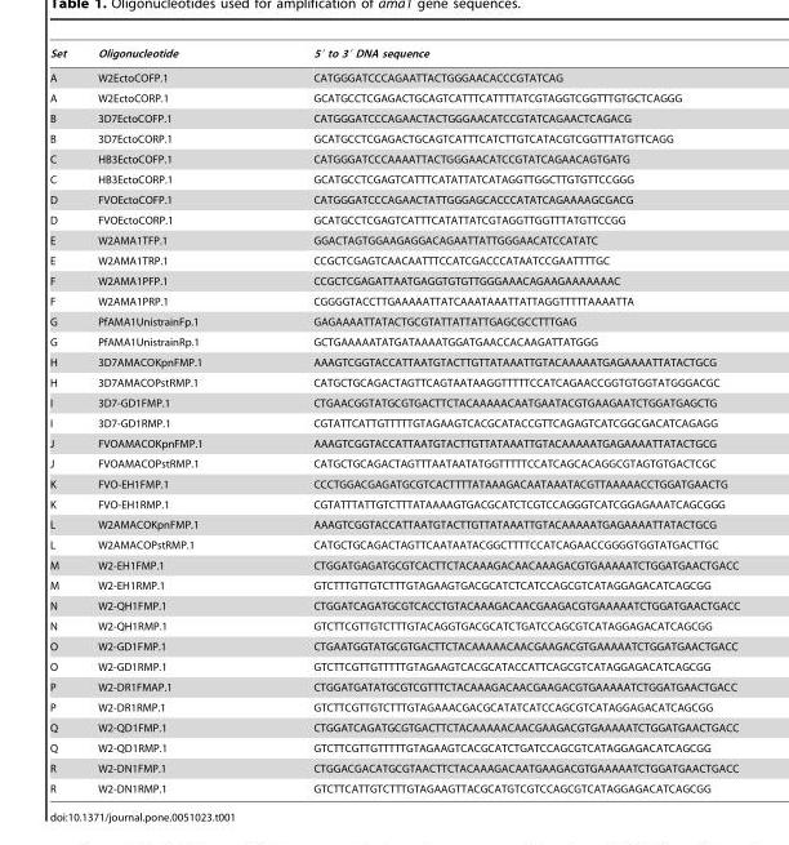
<table><thead><tr><td>Set</td><td>Oligonucleotide</td><td>5′ to 3′ DNA sequence</td></tr></thead><tbody><tr><td>A</td><td>W2EctoCOFP.1</td><td>CATGGGATCCCAGAATTACTGGGAACACCCGTATCAG</td></tr><tr><td>A</td><td>W2EctoCORP.1</td><td>GCATGCCTCGAGACTGCAGTCATTTCATTTTATCGTAGGTCGGTTTGTGCTCAGGG</td></tr><tr><td>B</td><td>3D7EctoCOFP.1</td><td>CATGGGATCCCAGAACTACTGGGAACATCCGTATCAGAACTCAGACG</td></tr><tr><td>B</td><td>3D7EctoCORP.1</td><td>GCATGCCTCGAGACTGCAGTCATTTCATCTTGTCATACGTCGGTTTATGTTCAGG</td></tr><tr><td>C</td><td>HB3EctoCOFP.1</td><td>CATGGGATCCCAAAATTACTGGGAACATCCGTATCAGAACAGTGATG</td></tr><tr><td>C</td><td>HB3EctoCORP.1</td><td>GCATGCCTCGAGTCATTTCATATTATCATAGGTTGGCTTGTGTTCCGGG</td></tr><tr><td>D</td><td>FVOEctoCOFP.1</td><td>CATGGGATCCCAGAACTATTGGGAGCACCCATATCAGAAAAGCGACG</td></tr><tr><td>D</td><td>FVOEctoCORP.1</td><td>GCATGCCTCGAGTCATTTCATATTATCGTAGGTTGGTTTATGTTCCGG</td></tr><tr><td>E</td><td>W2AMA1TFP.1</td><td>GGACTAGTGGAAGAGGACAGAATTATTGGGAACATCCATATC</td></tr><tr><td>E</td><td>W2AMA1TRP.1</td><td>CCGCTCGAGTCAACAATTTCCATCGACCCATAATCCGAATTTTGC</td></tr><tr><td>F</td><td>W2AMA1PFP.1</td><td>CCGCTCGAGATTAATGAGGTGTGTTGGGAAACAGAAGAAAAAAAC</td></tr><tr><td>F</td><td>W2AMA1PRP.1</td><td>CGGGGTACCTTGAAAAATTATCAAATAAATTATTAGGTTTTTAAAATTA</td></tr><tr><td>G</td><td>PfAMA1UnistrainFp.1</td><td>GAGAAAATTATACTGCGTATTATTATTGAGCGCCTTTGAG</td></tr><tr><td>G</td><td>PfAMA1UnistrainRp.1</td><td>GCTGAAAAATATGATAAAATGGATGAACCACAAGATTATGGG</td></tr><tr><td>H</td><td>3D7AMACOKpnFMP.1</td><td>AAAGTCGGTACCATTAATGTACTTGTTATAAATTGTACAAAAATGAGAAAATTATACTGCG</td></tr><tr><td>H</td><td>3D7AMACOPstRMP.1</td><td>CATGCTGCAGACTAGTTCAGTAATAAGGTTTTTCCATCAGAACCGGTGTGGTATGGGACGC</td></tr><tr><td>I</td><td>3D7-GD1FMP.1</td><td>CTGAACGGTATGCGTGACTTCTACAAAAACAATGAATACGTGAAGAATCTGGATGAGCTG</td></tr><tr><td>I</td><td>3D7-GD1RMP.1</td><td>CGTATTCATTGTTTTTGTAGAAGTCACGCATACCGTTCAGAGTCATCGGCGACATCAGAGG</td></tr><tr><td>J</td><td>FVOAMACOKpnFMP.1</td><td>AAAGTCGGTACCATTAATGTACTTGTTATAAATTGTACAAAAATGAGAAAATTATACTGCG</td></tr><tr><td>J</td><td>FVOAMACOPstRMP.1</td><td>CATGCTGCAGACTAGTTTAATAATATGGTTTTTCCATCAGCACAGGCGTAGTGTGACTCGC</td></tr><tr><td>K</td><td>FVO-EH1FMP.1</td><td>CCCTGGACGAGATGCGTCACTTTTATAAAGACAATAAATACGTTAAAAACCTGGATGAACTG</td></tr><tr><td>K</td><td>FVO-EH1RMP.1</td><td>CGTATTTATTGTCTTTATAAAAGTGACGCATCTCGTCCAGGGTCATCGGAGAAATCAGCGGG</td></tr><tr><td>L</td><td>W2AMACOKpnFMP.1</td><td>AAAGTCGGTACCATTAATGTACTTGTTATAAATTGTACAAAAATGAGAAAATTATACTGCG</td></tr><tr><td>L</td><td>W2AMACOPstRMP.1</td><td>CATGCTGCAGACTAGTTCAATAATACGGCTTTTCCATCAGAACCGGGGTGGTATGACTTGC</td></tr><tr><td>M</td><td>W2-EH1FMP.1</td><td>CTGGATGAGATGCGTCACTTCTACAAAGACAACAAAGACGTGAAAAATCTGGATGAACTGACC</td></tr><tr><td>M</td><td>W2-EH1RMP.1</td><td>GTCTTTGTTGTCTTTGTAGAAGTGACGCATCTCATCCAGCGTCATAGGAGACATCAGCGG</td></tr><tr><td>N</td><td>W2-QH1FMP.1</td><td>CTGGATCAGATGCGTCACCTGTACAAAGACAACGAAGACGTGAAAAATCTGGATGAACTGACC</td></tr><tr><td>N</td><td>W2-QH1RMP.1</td><td>GTCTTCGTTGTCTTTGTACAGGTGACGCATCTGATCCAGCGTCATAGGAGACATCAGCGG</td></tr><tr><td>O</td><td>W2-GD1FMP.1</td><td>CTGAATGGTATGCGTGACTTCTACAAAAACAACGAAGACGTGAAAAATCTGGATGAACTGACC</td></tr><tr><td>O</td><td>W2-GD1RMP.1</td><td>GTCTTCGTTGTTTTTGTAGAAGTCACGCATACCATTCAGCGTCATAGGAGACATCAGCGG</td></tr><tr><td>P</td><td>W2-DR1FMAP.1</td><td>CTGGATGATATGCGTCGTTTCTACAAAGACAACGAAGACGTGAAAAATCTGGATGAACTGACC</td></tr><tr><td>P</td><td>W2-DR1RMP.1</td><td>GTCTTCGTTGTCTTTGTAGAAACGACGCATATCATCCAGCGTCATAGGAGACATCAGCGG</td></tr><tr><td>Q</td><td>W2-QD1FMP.1</td><td>CTGGATCAGATGCGTGACTTCTACAAAAACAACGAAGACGTGAAAAATCTGGATGAACTGACC</td></tr><tr><td>Q</td><td>W2-QD1RMP.1</td><td>GTCTTCGTTGTTTTTGTAGAAGTCACGCATCTGATCCAGCGTCATAGGAGACATCAGCGG</td></tr><tr><td>R</td><td>W2-DN1FMP.1</td><td>CTGGACGACATGCGTAACTTCTACAAAGACAATGAAGACGTGAAAAATCTGGATGAACTGACC</td></tr><tr><td>R</td><td>W2-DN1RMP.1</td><td>GTCTTCATTGTCTTTGTAGAAGTTACGCATGTCGTCCAGCGTCATAGGAGACATCAGCGG</td></tr></tbody></table>